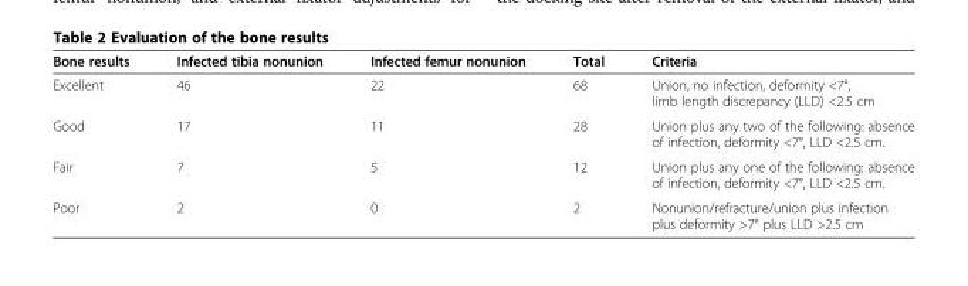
<table><thead><tr><td>Bone results</td><td>Infected tibia nonunion</td><td>Infected femur nonunion</td><td>Total</td><td>Criteria</td></tr></thead><tbody><tr><td>Excellent</td><td>46</td><td>22</td><td>68</td><td>Union, no infection, deformity &lt;7°, limb length discrepancy (LLD) &lt;2.5 cm</td></tr><tr><td>Good</td><td>17</td><td>11</td><td>28</td><td>Union plus any two of the following: absence of infection, deformity &lt;7°, LLD &lt;2.5 cm.</td></tr><tr><td>Fair</td><td>7</td><td>5</td><td>12</td><td>Union plus any one of the following: absence of infection, deformity &lt;7°, LLD &lt;2.5 cm.</td></tr><tr><td>Poor</td><td>2</td><td>0</td><td>2</td><td>Nonunion/refracture/union plus infection plus deformity &gt;7° plus LLD &gt;2.5 cm</td></tr></tbody></table>